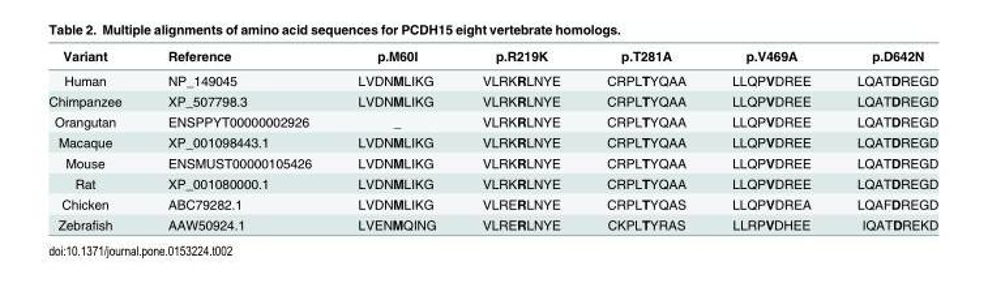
<table><thead><tr><td>Variant</td><td>Reference</td><td>p.M60I</td><td>p.R219K</td><td>p.T281A</td><td>p.V469A</td><td>p.D642N</td></tr></thead><tbody><tr><td>Human</td><td>NP_149045</td><td>LVDNMLIKG</td><td>VLRKRLNYE</td><td>CRPLTYQAA</td><td>LLQPVDREE</td><td>LQATDREGD</td></tr><tr><td>Chimpanzee</td><td>XP_507798.3</td><td>LVDNMLIKG</td><td>VLRKRLNYE</td><td>CRPLTYQAA</td><td>LLQPVDREE</td><td>LQATDREGD</td></tr><tr><td>Orangutan</td><td>ENSPPYT00000002926</td><td>_</td><td>VLRKRLNYE</td><td>CRPLTYQAA</td><td>LLQPVDREE</td><td>LQATDREGD</td></tr><tr><td>Macaque</td><td>XP_001098443.1</td><td>LVDNMLIKG</td><td>VLRKRLNYE</td><td>CRPLTYQAA</td><td>LLQPVDREE</td><td>LQATDREGD</td></tr><tr><td>Mouse</td><td>ENSMUST00000105426</td><td>LVDNMLIKG</td><td>VLRKRLNYE</td><td>CRPLTYQAA</td><td>LLQPVDREE</td><td>LQATDREGD</td></tr><tr><td>Rat</td><td>XP_001080000.1</td><td>LVDNMLIKG</td><td>VLRKRLNYE</td><td>CRPLTYQAA</td><td>LLQPVDREE</td><td>LQATDREGD</td></tr><tr><td>Chicken</td><td>ABC79282.1</td><td>LVDNMLIKG</td><td>VLRERLNYE</td><td>CRPLTYQAS</td><td>LLQPVDREA</td><td>LQAFDREGD</td></tr><tr><td>Zebrafish</td><td>AAW50924.1</td><td>LVENMQING</td><td>VLRERLNYE</td><td>CKPLTYRAS</td><td>LLRPVDHEE</td><td>IQATDREKD</td></tr></tbody></table>